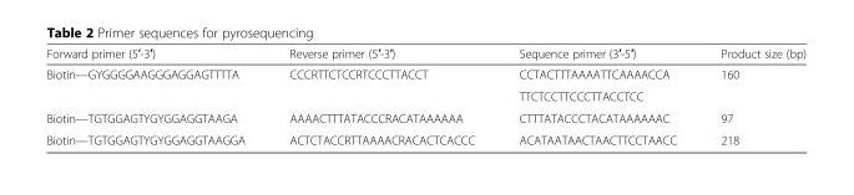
<table><thead><tr><td>Forward primer (5′-3′)</td><td>Reverse primer (5′-3′)</td><td>Sequence primer (3′-5′)</td><td>Product size (bp)</td></tr></thead><tbody><tr><td rowspan="2">Biotin—GYGGGGAAGGGAGGAGTTTTA</td><td>CCCRTTCTCCRTCCCTTACCT</td><td>CCTACTTTAAAATTCAAAACCA</td><td>160</td></tr><tr><td></td><td>TTCTCCTTCCCTTACCTCC</td><td></td></tr><tr><td>Biotin—TGTGGAGTYGYGGAGGTAAGA</td><td>AAAACTTTATACCCRACATAAAAAA</td><td>CTTTATACCCTACATAAAAAAC</td><td>97</td></tr><tr><td>Biotin—TGTGGAGTYGYGGAGGTAAGGA</td><td>ACTCTACCRTTAAAACRACACTCACCC</td><td>ACATAATAACTAACTTCCTAACC</td><td>218</td></tr></tbody></table>